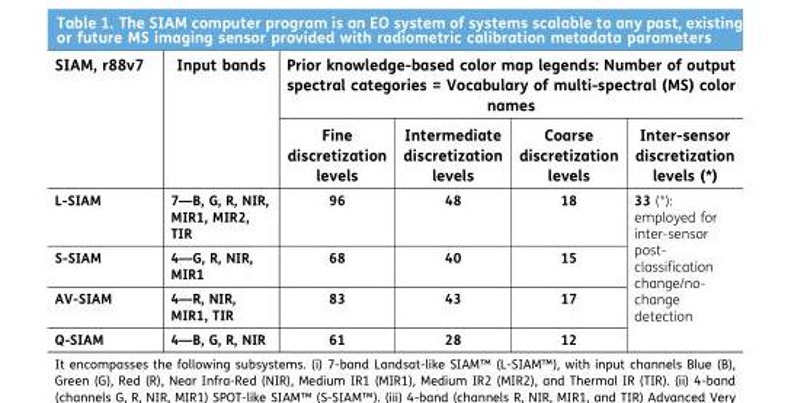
<table><thead><tr><td rowspan="2">SIAM, r88v7</td><td rowspan="2">Input bands</td><td colspan="4">Prior knowledge-based color map legends: Number of output spectral categories = Vocabulary of multi-spectral (MS) color names</td></tr><tr><td>Fine discretization levels</td><td>Intermediate discretization levels</td><td>Coarse discretization levels</td><td>Inter-sensor discretization levels (*)</td></tr></thead><tbody><tr><td>L-SIAM</td><td>7—B, G, R, NIR, MIR1, MIR2, TIR</td><td>96</td><td>48</td><td>18</td><td rowspan="4">33 (*): employed for inter-sensor post- classification change/no- change detection</td></tr><tr><td>S-SIAM</td><td>4—G, R, NIR, MIR1</td><td>68</td><td>40</td><td>15</td></tr><tr><td>AV-SIAM</td><td>4—R, NIR, MIR1, TIR</td><td>83</td><td>43</td><td>17</td></tr><tr><td>Q-SIAM</td><td>4—B, G, R, NIR</td><td>61</td><td>28</td><td>12</td></tr></tbody></table>